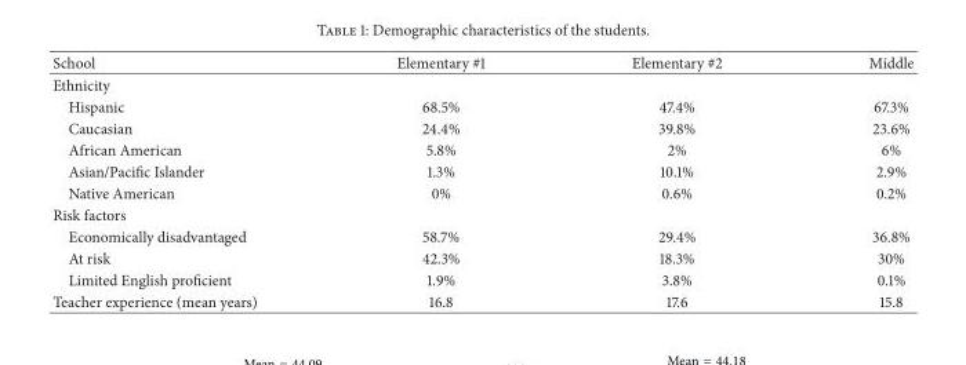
<table><thead><tr><td>School</td><td>Elementary #1</td><td>Elementary #2</td><td>Middle</td></tr></thead><tbody><tr><td colspan="4">Ethnicity</td></tr><tr><td>Hispanic</td><td>68.5%</td><td>47.4%</td><td>67.3%</td></tr><tr><td>Caucasian</td><td>24.4%</td><td>39.8%</td><td>23.6%</td></tr><tr><td>African American</td><td>5.8%</td><td>2%</td><td>6%</td></tr><tr><td>Asian/Pacific Islander</td><td>1.3%</td><td>10.1%</td><td>2.9%</td></tr><tr><td>Native American</td><td>0%</td><td>0.6%</td><td>0.2%</td></tr><tr><td colspan="4">Risk factors</td></tr><tr><td>Economically disadvantaged</td><td>58.7%</td><td>29.4%</td><td>36.8%</td></tr><tr><td>At risk</td><td>42.3%</td><td>18.3%</td><td>30%</td></tr><tr><td>Limited English proficient</td><td>1.9%</td><td>3.8%</td><td>0.1%</td></tr><tr><td>Teacher experience (mean years)</td><td>16.8</td><td>17.6</td><td>15.8</td></tr></tbody></table>